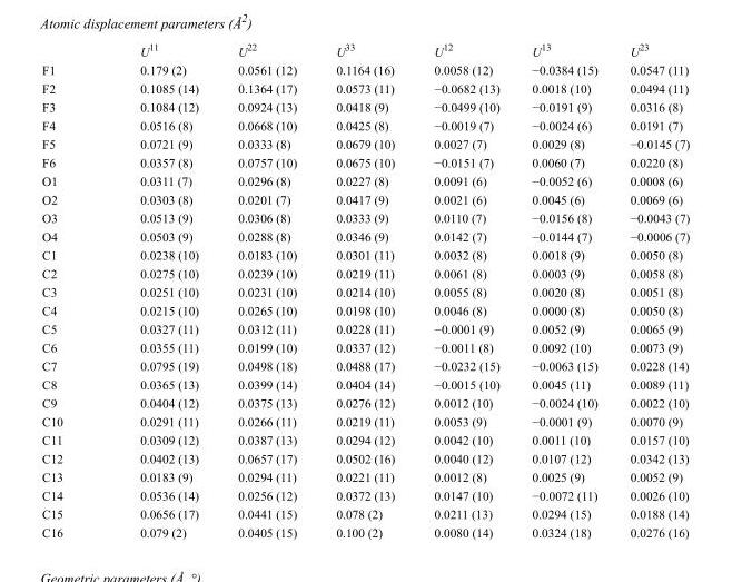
<table><thead><tr><td></td><td>U<sup>11</sup></td><td>U<sup>22</sup></td><td>U<sup>33</sup></td><td>U<sup>12</sup></td><td>U<sup>13</sup></td><td>U<sup>23</sup></td></tr></thead><tbody><tr><td>F1</td><td>0.179 (2)</td><td>0.0561 (12)</td><td>0.1164 (16)</td><td>0.0058 (12)</td><td>−0.0384 (15)</td><td>0.0547 (11)</td></tr><tr><td>F2</td><td>0.1085 (14)</td><td>0.1364 (17)</td><td>0.0573 (11)</td><td>−0.0682 (13)</td><td>0.0018 (10)</td><td>0.0494 (11)</td></tr><tr><td>F3</td><td>0.1084 (12)</td><td>0.0924 (13)</td><td>0.0418 (9)</td><td>−0.0499 (10)</td><td>−0.0191 (9)</td><td>0.0316 (8)</td></tr><tr><td>F4</td><td>0.0516 (8)</td><td>0.0668 (10)</td><td>0.0425 (8)</td><td>−0.0019 (7)</td><td>−0.0024 (6)</td><td>0.0191 (7)</td></tr><tr><td>F5</td><td>0.0721 (9)</td><td>0.0333 (8)</td><td>0.0679 (10)</td><td>0.0027 (7)</td><td>0.0029 (8)</td><td>−0.0145 (7)</td></tr><tr><td>F6</td><td>0.0357 (8)</td><td>0.0757 (10)</td><td>0.0675 (10)</td><td>−0.0151 (7)</td><td>0.0060 (7)</td><td>0.0220 (8)</td></tr><tr><td>O1</td><td>0.0311 (7)</td><td>0.0296 (8)</td><td>0.0227 (8)</td><td>0.0091 (6)</td><td>−0.0052 (6)</td><td>0.0008 (6)</td></tr><tr><td>O2</td><td>0.0303 (8)</td><td>0.0201 (7)</td><td>0.0417 (9)</td><td>0.0021 (6)</td><td>0.0045 (6)</td><td>0.0069 (6)</td></tr><tr><td>O3</td><td>0.0513 (9)</td><td>0.0306 (8)</td><td>0.0333 (9)</td><td>0.0110 (7)</td><td>−0.0156 (8)</td><td>−0.0043 (7)</td></tr><tr><td>O4</td><td>0.0503 (9)</td><td>0.0288 (8)</td><td>0.0346 (9)</td><td>0.0142 (7)</td><td>−0.0144 (7)</td><td>−0.0006 (7)</td></tr><tr><td>C1</td><td>0.0238 (10)</td><td>0.0183 (10)</td><td>0.0301 (11)</td><td>0.0032 (8)</td><td>0.0018 (9)</td><td>0.0050 (8)</td></tr><tr><td>C2</td><td>0.0275 (10)</td><td>0.0239 (10)</td><td>0.0219 (11)</td><td>0.0061 (8)</td><td>0.0003 (9)</td><td>0.0058 (8)</td></tr><tr><td>C3</td><td>0.0251 (10)</td><td>0.0231 (10)</td><td>0.0214 (10)</td><td>0.0055 (8)</td><td>0.0020 (8)</td><td>0.0051 (8)</td></tr><tr><td>C4</td><td>0.0215 (10)</td><td>0.0265 (10)</td><td>0.0198 (10)</td><td>0.0046 (8)</td><td>0.0000 (8)</td><td>0.0050 (8)</td></tr><tr><td>C5</td><td>0.0327 (11)</td><td>0.0312 (11)</td><td>0.0228 (11)</td><td>−0.0001 (9)</td><td>0.0052 (9)</td><td>0.0065 (9)</td></tr><tr><td>C6</td><td>0.0355 (11)</td><td>0.0199 (10)</td><td>0.0337 (12)</td><td>−0.0011 (8)</td><td>0.0092 (10)</td><td>0.0073 (9)</td></tr><tr><td>C7</td><td>0.0795 (19)</td><td>0.0498 (18)</td><td>0.0488 (17)</td><td>−0.0232 (15)</td><td>−0.0063 (15)</td><td>0.0228 (14)</td></tr><tr><td>C8</td><td>0.0365 (13)</td><td>0.0399 (14)</td><td>0.0404 (14)</td><td>−0.0015 (10)</td><td>0.0045 (11)</td><td>0.0089 (11)</td></tr><tr><td>C9</td><td>0.0404 (12)</td><td>0.0375 (13)</td><td>0.0276 (12)</td><td>0.0012 (10)</td><td>−0.0024 (10)</td><td>0.0022 (10)</td></tr><tr><td>C10</td><td>0.0291 (11)</td><td>0.0266 (11)</td><td>0.0219 (11)</td><td>0.0053 (9)</td><td>−0.0001 (9)</td><td>0.0070 (9)</td></tr><tr><td>C11</td><td>0.0309 (12)</td><td>0.0387 (13)</td><td>0.0294 (12)</td><td>0.0042 (10)</td><td>0.0011 (10)</td><td>0.0157 (10)</td></tr><tr><td>C12</td><td>0.0402 (13)</td><td>0.0657 (17)</td><td>0.0502 (16)</td><td>0.0040 (12)</td><td>0.0107 (12)</td><td>0.0342 (13)</td></tr><tr><td>C13</td><td>0.0183 (9)</td><td>0.0294 (11)</td><td>0.0221 (11)</td><td>0.0012 (8)</td><td>0.0025 (9)</td><td>0.0052 (9)</td></tr><tr><td>C14</td><td>0.0536 (14)</td><td>0.0256 (12)</td><td>0.0372 (13)</td><td>0.0147 (10)</td><td>−0.0072 (11)</td><td>0.0026 (10)</td></tr><tr><td>C15</td><td>0.0656 (17)</td><td>0.0441 (15)</td><td>0.078 (2)</td><td>0.0211 (13)</td><td>0.0294 (15)</td><td>0.0188 (14)</td></tr><tr><td>C16</td><td>0.079 (2)</td><td>0.0405 (15)</td><td>0.100 (2)</td><td>0.0080 (14)</td><td>0.0324 (18)</td><td>0.0276 (16)</td></tr></tbody></table>